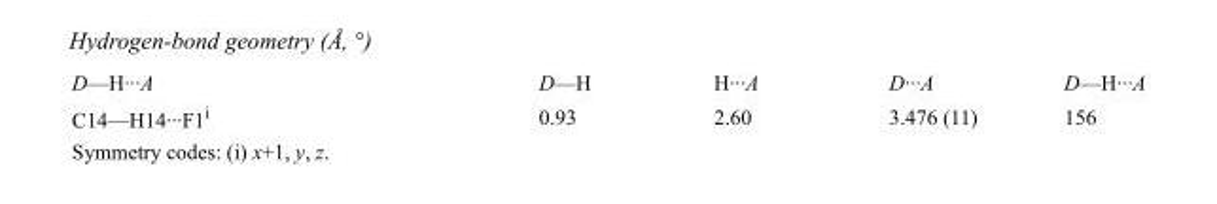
<table><tbody><tr><td>D—H···A</td><td>D—H</td><td>H···A</td><td>D···A</td><td>D—H···A</td></tr><tr><td>C14—H14···F1<sup>i</sup></td><td>0.93</td><td>2.60</td><td>3.476 (11)</td><td>156</td></tr></tbody></table>